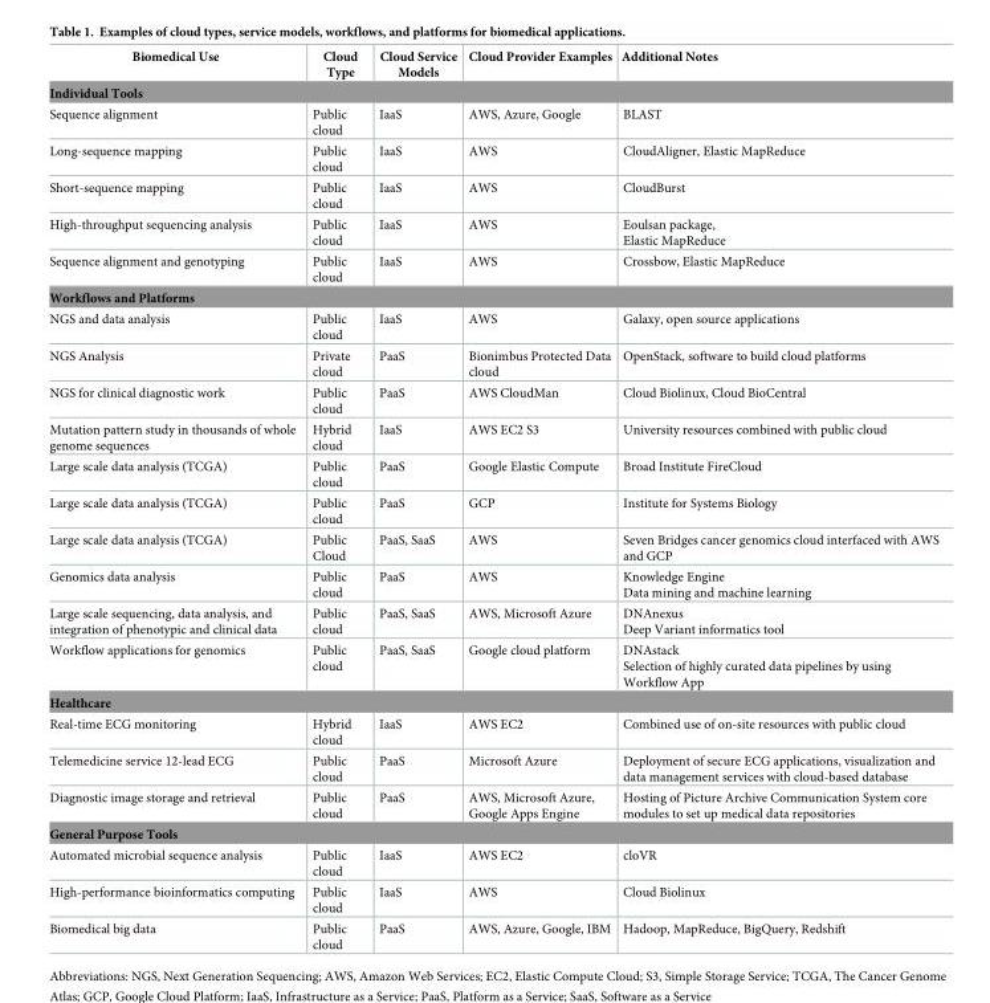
<table><thead><tr><td>Biomedical Use</td><td>Cloud Type</td><td>Cloud Service Models</td><td>Cloud Provider Examples</td><td>Additional Notes</td></tr></thead><tbody><tr><td colspan="5">Individual Tools</td></tr><tr><td>Sequence alignment</td><td>Public cloud</td><td>IaaS</td><td>AWS, Azure, Google</td><td>BLAST</td></tr><tr><td>Long-sequence mapping</td><td>Public cloud</td><td>IaaS</td><td>AWS</td><td>CloudAligner, Elastic MapReduce</td></tr><tr><td>Short-sequence mapping</td><td>Public cloud</td><td>IaaS</td><td>AWS</td><td>CloudBurst</td></tr><tr><td>High-throughput sequencing analysis</td><td>Public cloud</td><td>IaaS</td><td>AWS</td><td>Eoulsan package, Elastic MapReduce</td></tr><tr><td>Sequence alignment and genotyping</td><td>Public cloud</td><td>IaaS</td><td>AWS</td><td>Crossbow, Elastic MapReduce</td></tr><tr><td colspan="5">Workflows and Platforms</td></tr><tr><td>NGS and data analysis</td><td>Public cloud</td><td>IaaS</td><td>AWS</td><td>Galaxy, open source applications</td></tr><tr><td>NGS Analysis</td><td>Private cloud</td><td>PaaS</td><td>Bionimbus Protected Data cloud</td><td>OpenStack, software to build cloud platforms</td></tr><tr><td>NGS for clinical diagnostic work</td><td>Public cloud</td><td>PaaS</td><td>AWS CloudMan</td><td>Cloud Biolinux, Cloud BioCentral</td></tr><tr><td>Mutation pattern study in thousands of whole genome sequences</td><td>Hybrid cloud</td><td>IaaS</td><td>AWS EC2 S3</td><td>University resources combined with public cloud</td></tr><tr><td>Large scale data analysis (TCGA)</td><td>Public cloud</td><td>PaaS</td><td>Google Elastic Compute</td><td>Broad Institute FireCloud</td></tr><tr><td>Large scale data analysis (TCGA)</td><td>Public cloud</td><td>PaaS</td><td>GCP</td><td>Institute for Systems Biology</td></tr><tr><td>Large scale data analysis (TCGA)</td><td>Public Cloud</td><td>PaaS, SaaS</td><td>AWS</td><td>Seven Bridges cancer genomics cloud interfaced with AWS and GCP</td></tr><tr><td>Genomics data analysis</td><td>Public cloud</td><td>PaaS</td><td>AWS</td><td>Knowledge Engine Data mining and machine learning</td></tr><tr><td>Large scale sequencing, data analysis, and integration of phenotypic and clinical data</td><td>Public cloud</td><td>PaaS, SaaS</td><td>AWS, Microsoft Azure</td><td>DNAnexus Deep Variant informatics tool</td></tr><tr><td>Workflow applications for genomics</td><td>Public cloud</td><td>PaaS, SaaS</td><td>Google cloud platform</td><td>DNAstack Selection of highly curated data pipelines by using Workflow App</td></tr><tr><td colspan="5">Healthcare</td></tr><tr><td>Real-time ECG monitoring</td><td>Hybrid cloud</td><td>IaaS</td><td>AWS EC2</td><td>Combined use of on-site resources with public cloud</td></tr><tr><td>Telemedicine service 12-lead ECG</td><td>Public cloud</td><td>PaaS</td><td>Microsoft Azure</td><td>Deployment of secure ECG applications, visualization and data management services with cloud-based database</td></tr><tr><td>Diagnostic image storage and retrieval</td><td>Public cloud</td><td>PaaS</td><td>AWS, Microsoft Azure, Google Apps Engine</td><td>Hosting of Picture Archive Communication System core modules to set up medical data repositories</td></tr><tr><td colspan="5">General Purpose Tools</td></tr><tr><td>Automated microbial sequence analysis</td><td>Public cloud</td><td>IaaS</td><td>AWS EC2</td><td>cloVR</td></tr><tr><td>High-performance bioinformatics computing</td><td>Public cloud</td><td>IaaS</td><td>AWS</td><td>Cloud Biolinux</td></tr><tr><td>Biomedical big data</td><td>Public cloud</td><td>PaaS</td><td>AWS, Azure, Google, IBM</td><td>Hadoop, MapReduce, BigQuery, Redshift</td></tr></tbody></table>